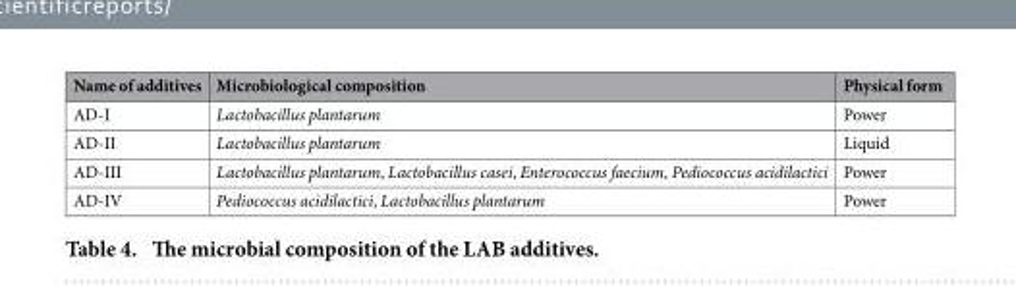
<table><thead><tr><td>Name of additives</td><td>Microbiological composition</td><td>Physical form</td></tr></thead><tbody><tr><td>AD-I</td><td>Lactobacillus plantarum</td><td>Power</td></tr><tr><td>AD-II</td><td>Lactobacillus plantarum</td><td>Liquid</td></tr><tr><td>AD-III</td><td>Lactobacillus plantarum, Lactobacillus casei, Enterococcus faecium, Pediococcus acidilactici</td><td>Power</td></tr><tr><td>AD-IV</td><td>Pediococcus acidilactici, Lactobacillus plantarum</td><td>Power</td></tr></tbody></table>